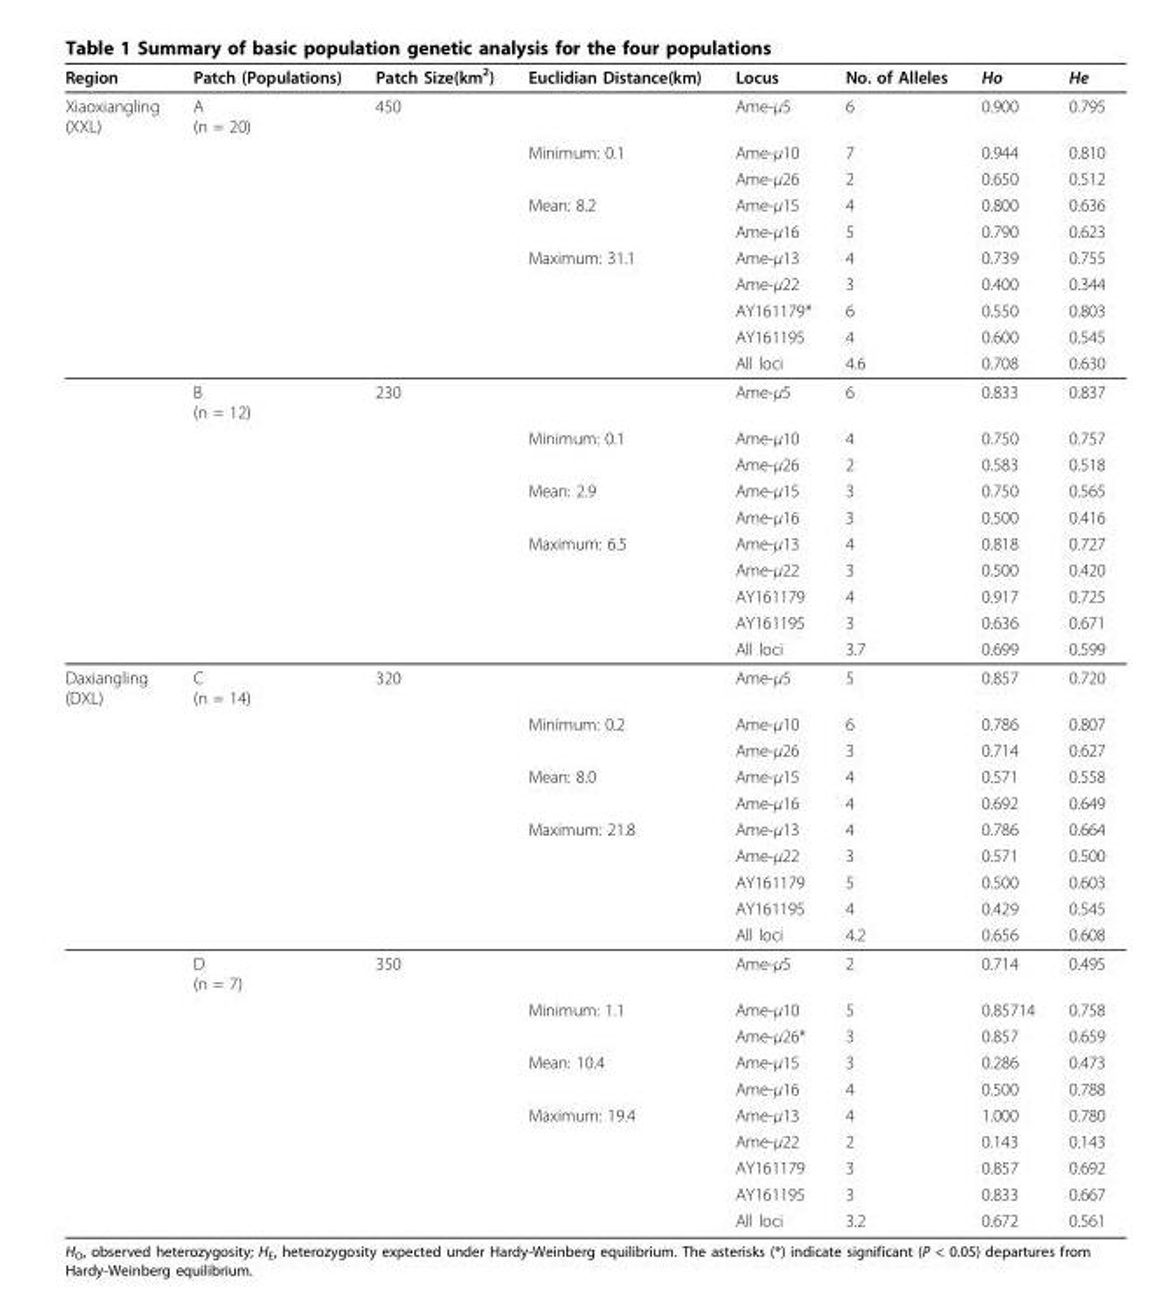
<table><thead><tr><td>Region</td><td>Patch (Populations)</td><td>Patch Size(km<sup>2</sup>)</td><td>Euclidian Distance(km)</td><td>Locus</td><td>No. of Alleles</td><td>Ho</td><td>He</td></tr></thead><tbody><tr><td rowspan="20">Xiaoxiangling (XXL)</td><td>A (n = 20)</td><td>450</td><td></td><td>Ame-μ5</td><td>6</td><td>0.900</td><td>0.795</td></tr><tr><td></td><td></td><td>Minimum: 0.1</td><td>Ame-μ10</td><td>7</td><td>0.944</td><td>0.810</td></tr><tr><td></td><td></td><td></td><td>Ame-μ26</td><td>2</td><td>0.650</td><td>0.512</td></tr><tr><td></td><td></td><td>Mean: 8.2</td><td>Ame-μ15</td><td>4</td><td>0.800</td><td>0.636</td></tr><tr><td></td><td></td><td></td><td>Ame-μ16</td><td>5</td><td>0.790</td><td>0.623</td></tr><tr><td></td><td></td><td>Maximum: 31.1</td><td>Ame-μ13</td><td>4</td><td>0.739</td><td>0.755</td></tr><tr><td></td><td></td><td></td><td>Ame-μ22</td><td>3</td><td>0.400</td><td>0.344</td></tr><tr><td></td><td></td><td></td><td>AY161179*</td><td>6</td><td>0.550</td><td>0.803</td></tr><tr><td></td><td></td><td></td><td>AY161195</td><td>4</td><td>0.600</td><td>0.545</td></tr><tr><td></td><td></td><td></td><td>All loci</td><td>4.6</td><td>0.708</td><td>0.630</td></tr><tr><td>B (n = 12)</td><td>230</td><td></td><td>Ame-μ5</td><td>6</td><td>0.833</td><td>0.837</td></tr><tr><td></td><td></td><td>Minimum: 0.1</td><td>Ame-μ10</td><td>4</td><td>0.750</td><td>0.757</td></tr><tr><td></td><td></td><td></td><td>Ame-μ26</td><td>2</td><td>0.583</td><td>0.518</td></tr><tr><td></td><td></td><td>Mean: 2.9</td><td>Ame-μ15</td><td>3</td><td>0.750</td><td>0.565</td></tr><tr><td></td><td></td><td></td><td>Ame-μ16</td><td>3</td><td>0.500</td><td>0.416</td></tr><tr><td></td><td></td><td>Maximum: 6.5</td><td>Ame-μ13</td><td>4</td><td>0.818</td><td>0.727</td></tr><tr><td></td><td></td><td></td><td>Ame-μ22</td><td>3</td><td>0.500</td><td>0.420</td></tr><tr><td></td><td></td><td></td><td>AY161179</td><td>4</td><td>0.917</td><td>0.725</td></tr><tr><td></td><td></td><td></td><td>AY161195</td><td>3</td><td>0.636</td><td>0.671</td></tr><tr><td></td><td></td><td></td><td>All loci</td><td>3.7</td><td>0.699</td><td>0.599</td></tr><tr><td rowspan="20">Daxiangling (DXL)</td><td>C (n = 14)</td><td>320</td><td></td><td>Ame-μ5</td><td>5</td><td>0.857</td><td>0.720</td></tr><tr><td></td><td></td><td>Minimum: 0.2</td><td>Ame-μ10</td><td>6</td><td>0.786</td><td>0.807</td></tr><tr><td></td><td></td><td></td><td>Ame-μ26</td><td>3</td><td>0.714</td><td>0.627</td></tr><tr><td></td><td></td><td>Mean: 8.0</td><td>Ame-μ15</td><td>4</td><td>0.571</td><td>0.558</td></tr><tr><td></td><td></td><td></td><td>Ame-μ16</td><td>4</td><td>0.692</td><td>0.649</td></tr><tr><td></td><td></td><td>Maximum: 21.8</td><td>Ame-μ13</td><td>4</td><td>0.786</td><td>0.664</td></tr><tr><td></td><td></td><td></td><td>Ame-μ22</td><td>3</td><td>0.571</td><td>0.500</td></tr><tr><td></td><td></td><td></td><td>AY161179</td><td>5</td><td>0.500</td><td>0.603</td></tr><tr><td></td><td></td><td></td><td>AY161195</td><td>4</td><td>0.429</td><td>0.545</td></tr><tr><td></td><td></td><td></td><td>All loci</td><td>4.2</td><td>0.656</td><td>0.608</td></tr><tr><td>D (n = 7)</td><td>350</td><td></td><td>Ame-μ5</td><td>2</td><td>0.714</td><td>0.495</td></tr><tr><td></td><td></td><td>Minimum: 1.1</td><td>Ame-μ10</td><td>5</td><td>0.85714</td><td>0.758</td></tr><tr><td></td><td></td><td></td><td>Ame-μ26*</td><td>3</td><td>0.857</td><td>0.659</td></tr><tr><td></td><td></td><td>Mean: 10.4</td><td>Ame-μ15</td><td>3</td><td>0.286</td><td>0.473</td></tr><tr><td></td><td></td><td></td><td>Ame-μ16</td><td>4</td><td>0.500</td><td>0.788</td></tr><tr><td></td><td></td><td>Maximum: 19.4</td><td>Ame-μ13</td><td>4</td><td>1.000</td><td>0.780</td></tr><tr><td></td><td></td><td></td><td>Ame-μ22</td><td>2</td><td>0.143</td><td>0.143</td></tr><tr><td></td><td></td><td></td><td>AY161179</td><td>3</td><td>0.857</td><td>0.692</td></tr><tr><td></td><td></td><td></td><td>AY161195</td><td>3</td><td>0.833</td><td>0.667</td></tr><tr><td></td><td></td><td></td><td>All loci</td><td>3.2</td><td>0.672</td><td>0.561</td></tr></tbody></table>